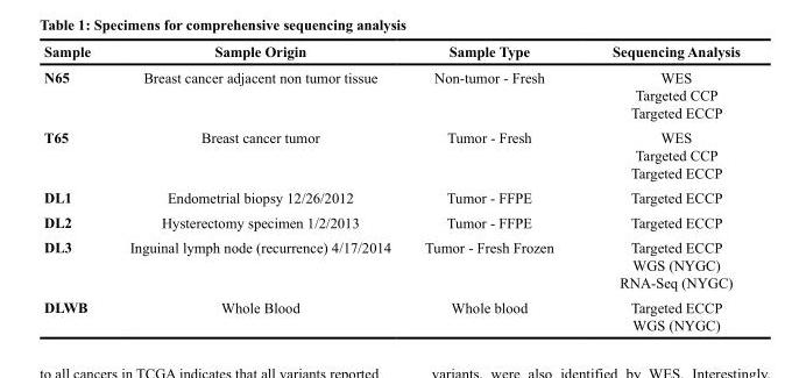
<table><thead><tr><td>Sample</td><td>Sample Origin</td><td>Sample Type</td><td>Sequencing Analysis</td></tr></thead><tbody><tr><td>N65</td><td>Breast cancer adjacent non tumor tissue</td><td>Non-tumor - Fresh</td><td>WES Targeted CCP Targeted ECCP</td></tr><tr><td>T65</td><td>Breast cancer tumor</td><td>Tumor - Fresh</td><td>WES Targeted CCP Targeted ECCP</td></tr><tr><td>DL1</td><td>Endometrial biopsy 12/26/2012</td><td>Tumor - FFPE</td><td>Targeted ECCP</td></tr><tr><td>DL2</td><td>Hysterectomy specimen 1/2/2013</td><td>Tumor - FFPE</td><td>Targeted ECCP</td></tr><tr><td>DL3</td><td>Inguinal lymph node (recurrence) 4/17/2014</td><td>Tumor - Fresh Frozen</td><td>Targeted ECCP WGS (NYGC) RNA-Seq (NYGC)</td></tr><tr><td>DLWB</td><td>Whole Blood</td><td>Whole blood</td><td>Targeted ECCP WGS (NYGC)</td></tr></tbody></table>